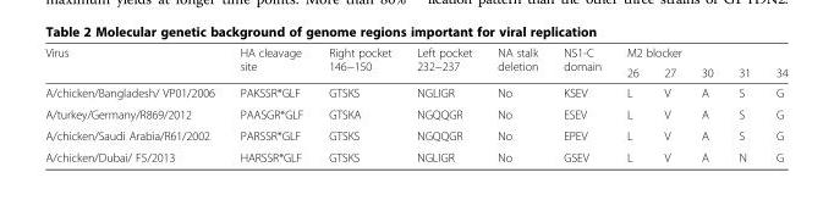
<table><thead><tr><td rowspan="2">Virus</td><td rowspan="2">HA cleavage site</td><td rowspan="2">Right pocket 146−150</td><td rowspan="2">Left pocket 232−237</td><td rowspan="2">NA stalk deletion</td><td rowspan="2">NS1-C domain</td><td colspan="5">M2 blocker</td></tr><tr><td>26</td><td>27</td><td>30</td><td>31</td><td>34</td></tr></thead><tbody><tr><td>A/chicken/Bangladesh/ VP01/2006</td><td>PAKSSR*GLF</td><td>GTSKS</td><td>NGLIGR</td><td>No</td><td>KSEV</td><td>L</td><td>V</td><td>A</td><td>S</td><td>G</td></tr><tr><td>A/turkey/Germany/R869/2012</td><td>PAASGR*GLF</td><td>GTSKA</td><td>NGQQGR</td><td>No</td><td>ESEV</td><td>L</td><td>V</td><td>A</td><td>S</td><td>G</td></tr><tr><td>A/chicken/Saudi Arabia/R61/2002</td><td>PARSSR*GLF</td><td>GTSKS</td><td>NGQQGR</td><td>No</td><td>EPEV</td><td>L</td><td>V</td><td>A</td><td>S</td><td>G</td></tr><tr><td>A/chicken/Dubai/ F5/2013</td><td>HARSSR*GLF</td><td>GTSKS</td><td>NGLIGR</td><td>No</td><td>GSEV</td><td>L</td><td>V</td><td>A</td><td>N</td><td>G</td></tr></tbody></table>